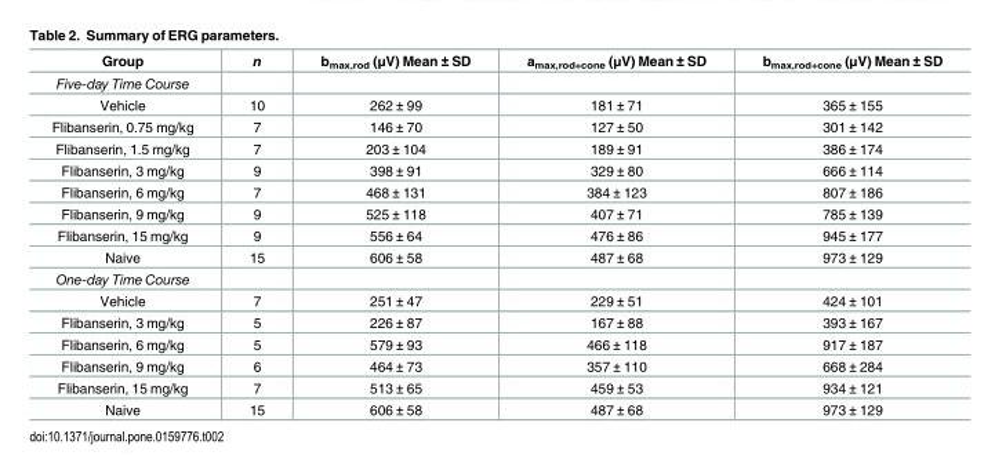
<table><thead><tr><td>Group</td><td>n</td><td>b<sub>max,rod</sub> (μV) Mean ± SD</td><td>a<sub>max,rod+cone</sub> (μV) Mean ± SD</td><td>b<sub>max,rod+cone</sub> (μV) Mean ± SD</td></tr></thead><tbody><tr><td colspan="5">Five-day Time Course</td></tr><tr><td>Vehicle</td><td>10</td><td>262 ± 99</td><td>181 ± 71</td><td>365 ± 155</td></tr><tr><td>Flibanserin, 0.75 mg/kg</td><td>7</td><td>146 ± 70</td><td>127 ± 50</td><td>301 ± 142</td></tr><tr><td>Flibanserin, 1.5 mg/kg</td><td>7</td><td>203 ± 104</td><td>189 ± 91</td><td>386 ± 174</td></tr><tr><td>Flibanserin, 3 mg/kg</td><td>9</td><td>398 ± 91</td><td>329 ± 80</td><td>666 ± 114</td></tr><tr><td>Flibanserin, 6 mg/kg</td><td>7</td><td>468 ± 131</td><td>384 ± 123</td><td>807 ± 186</td></tr><tr><td>Flibanserin, 9 mg/kg</td><td>9</td><td>525 ± 118</td><td>407 ± 71</td><td>785 ± 139</td></tr><tr><td>Flibanserin, 15 mg/kg</td><td>9</td><td>556 ± 64</td><td>476 ± 86</td><td>945 ± 177</td></tr><tr><td>Naive</td><td>15</td><td>606 ± 58</td><td>487 ± 68</td><td>973 ± 129</td></tr><tr><td colspan="5">One-day Time Course</td></tr><tr><td>Vehicle</td><td>7</td><td>251 ± 47</td><td>229 ± 51</td><td>424 ± 101</td></tr><tr><td>Flibanserin, 3 mg/kg</td><td>5</td><td>226 ± 87</td><td>167 ± 88</td><td>393 ± 167</td></tr><tr><td>Flibanserin, 6 mg/kg</td><td>5</td><td>579 ± 93</td><td>466 ± 118</td><td>917 ± 187</td></tr><tr><td>Flibanserin, 9 mg/kg</td><td>6</td><td>464 ± 73</td><td>357 ± 110</td><td>668 ± 284</td></tr><tr><td>Flibanserin, 15 mg/kg</td><td>7</td><td>513 ± 65</td><td>459 ± 53</td><td>934 ± 121</td></tr><tr><td>Naive</td><td>15</td><td>606 ± 58</td><td>487 ± 68</td><td>973 ± 129</td></tr></tbody></table>